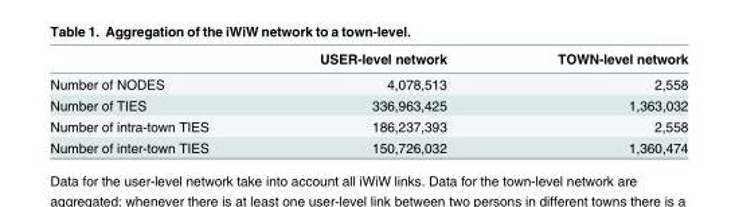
<table><thead><tr><td></td><td>USER-level network</td><td>TOWN-level network</td></tr></thead><tbody><tr><td>Number of NODES</td><td>4,078,513</td><td>2,558</td></tr><tr><td>Number of TIES</td><td>336,963,425</td><td>1,363,032</td></tr><tr><td>Number of intra-town TIES</td><td>186,237,393</td><td>2,558</td></tr><tr><td>Number of inter-town TIES</td><td>150,726,032</td><td>1,360,474</td></tr></tbody></table>